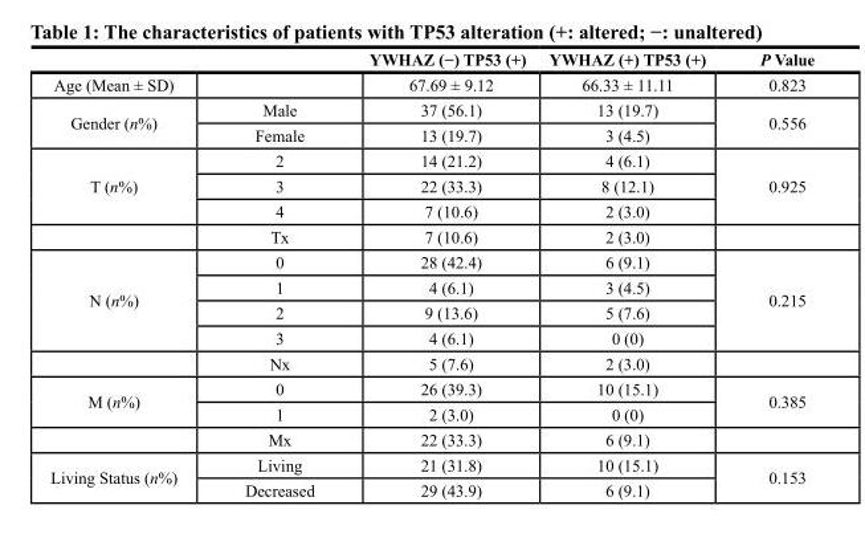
<table><thead><tr><td></td><td></td><td>YWHAZ (−) TP53 (+)</td><td>YWHAZ (+) TP53 (+)</td><td>P Value</td></tr></thead><tbody><tr><td>Age (Mean ± SD)</td><td></td><td>67.69 ± 9.12</td><td>66.33 ± 11.11</td><td>0.823</td></tr><tr><td rowspan="2">Gender (n%)</td><td>Male</td><td>37 (56.1)</td><td>13 (19.7)</td><td rowspan="2">0.556</td></tr><tr><td>Female</td><td>13 (19.7)</td><td>3 (4.5)</td></tr><tr><td rowspan="4">T (n%)</td><td>2</td><td>14 (21.2)</td><td>4 (6.1)</td><td rowspan="3">0.925</td></tr><tr><td>3</td><td>22 (33.3)</td><td>8 (12.1)</td></tr><tr><td>4</td><td>7 (10.6)</td><td>2 (3.0)</td></tr><tr><td>Tx</td><td>7 (10.6)</td><td>2 (3.0)</td><td></td></tr><tr><td rowspan="5">N (n%)</td><td>0</td><td>28 (42.4)</td><td>6 (9.1)</td><td rowspan="4">0.215</td></tr><tr><td>1</td><td>4 (6.1)</td><td>3 (4.5)</td></tr><tr><td>2</td><td>9 (13.6)</td><td>5 (7.6)</td></tr><tr><td>3</td><td>4 (6.1)</td><td>0 (0)</td></tr><tr><td>Nx</td><td>5 (7.6)</td><td>2 (3.0)</td><td></td></tr><tr><td rowspan="3">M (n%)</td><td>0</td><td>26 (39.3)</td><td>10 (15.1)</td><td rowspan="2">0.385</td></tr><tr><td>1</td><td>2 (3.0)</td><td>0 (0)</td></tr><tr><td>Mx</td><td>22 (33.3)</td><td>6 (9.1)</td><td></td></tr><tr><td rowspan="2">Living Status (n%)</td><td>Living</td><td>21 (31.8)</td><td>10 (15.1)</td><td rowspan="2">0.153</td></tr><tr><td>Decreased</td><td>29 (43.9)</td><td>6 (9.1)</td></tr></tbody></table>